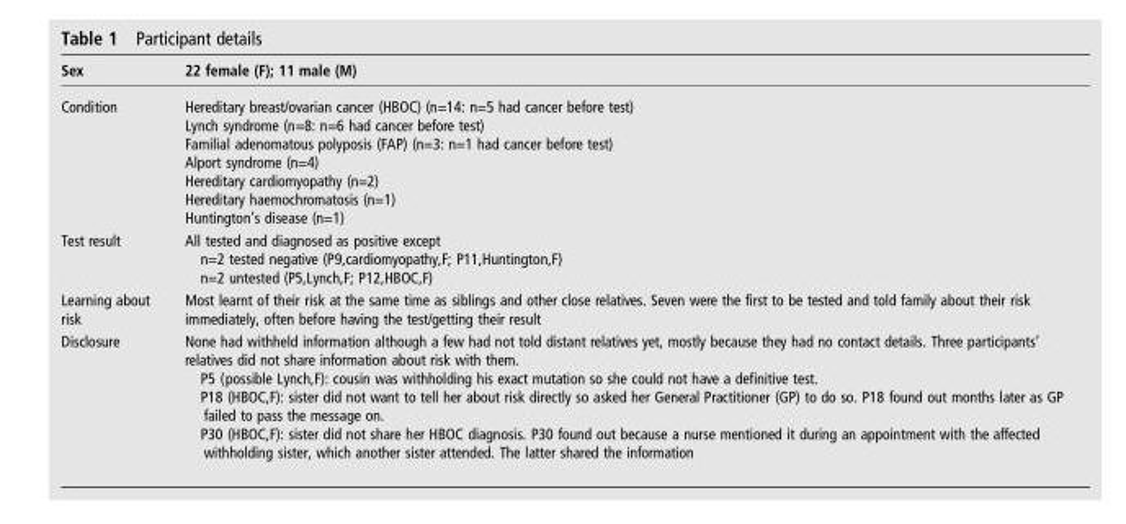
<table><thead><tr><td>Sex</td><td>22 female (F); 11 male (M)</td></tr></thead><tbody><tr><td>Condition</td><td>Hereditary breast/ovarian cancer (HBOC) (n=14: n=5 had cancer before test) Lynch syndrome (n=8: n=6 had cancer before test) Familial adenomatous polyposis (FAP) (n=3: n=1 had cancer before test) Alport syndrome (n=4) Hereditary cardiomyopathy (n=2) Hereditary haemochromatosis (n=1) Huntington’s disease (n=1)</td></tr><tr><td>Test result</td><td>All tested and diagnosed as positive except n=2 tested negative (P9,cardiomyopathy,F; P11,Huntington,F) n=2 untested (P5,Lynch,F; P12,HBOC,F)</td></tr><tr><td>Learning about risk</td><td>Most learnt of their risk at the same time as siblings and other close relatives. Seven were the first to be tested and told family about their risk immediately, often before having the test/getting their result</td></tr><tr><td>Disclosure</td><td>None had withheld information although a few had not told distant relatives yet, mostly because they had no contact details. Three participants’ relatives did not share information about risk with them. P5 (possible Lynch,F): cousin was withholding his exact mutation so she could not have a definitive test. P18 (HBOC,F): sister did not want to tell her about risk directly so asked her General Practitioner (GP) to do so. P18 found out months later as GP failed to pass the message on. P30 (HBOC,F): sister did not share her HBOC diagnosis. P30 found out because a nurse mentioned it during an appointment with the affected withholding sister, which another sister attended. The latter shared the information</td></tr></tbody></table>